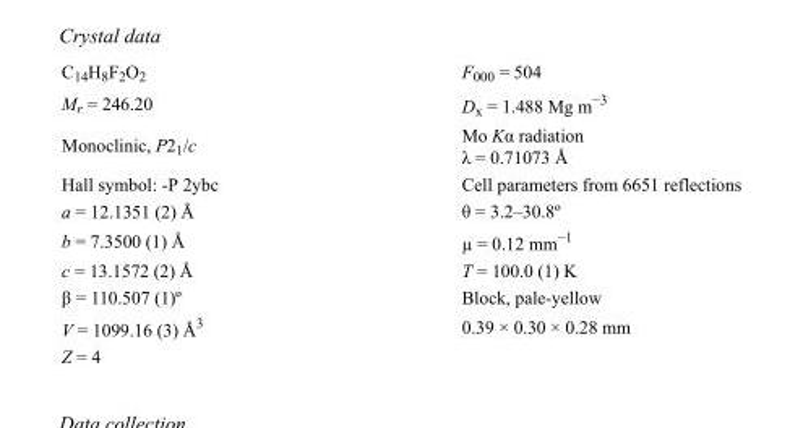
<table><tbody><tr><td>C<sub>14</sub>H<sub>8</sub>F<sub>2</sub>O<sub>2</sub></td><td>F<sub>000</sub> = 504</td></tr><tr><td>M<sub>r</sub> = 246.20</td><td>D<sub>x</sub> = 1.488 Mg m<sup>−3</sup></td></tr><tr><td>Monoclinic, P2<sub>1</sub>/c</td><td>Mo Kα radiation λ = 0.71073 Å</td></tr><tr><td>Hall symbol: -P 2ybc</td><td>Cell parameters from 6651 reflections</td></tr><tr><td>a = 12.1351 (2) Å</td><td>θ = 3.2–30.8º</td></tr><tr><td>b = 7.3500 (1) Å</td><td>µ = 0.12 mm<sup>−1</sup></td></tr><tr><td>c = 13.1572 (2) Å</td><td>T = 100.0 (1) K</td></tr><tr><td>β = 110.507 (1)º</td><td>Block, pale-yellow</td></tr><tr><td>V = 1099.16 (3) Å<sup>3</sup></td><td>0.39 × 0.30 × 0.28 mm</td></tr><tr><td>Z = 4</td><td></td></tr></tbody></table>